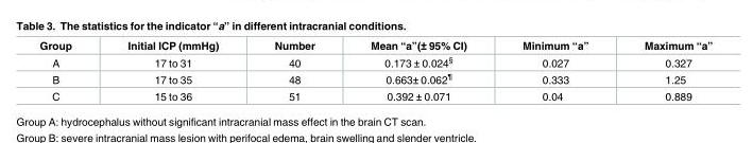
<table><thead><tr><td>Group</td><td>Initial ICP (mmHg)</td><td>Number</td><td>Mean “a”(± 95% CI)</td><td>Minimum “a”</td><td>Maximum “a”</td></tr></thead><tbody><tr><td>A</td><td>17 to 31</td><td>40</td><td>0.173 ± 0.024<sup>§</sup></td><td>0.027</td><td>0.327</td></tr><tr><td>B</td><td>17 to 35</td><td>48</td><td>0.663± 0.062<sup>¶</sup></td><td>0.333</td><td>1.25</td></tr><tr><td>C</td><td>15 to 36</td><td>51</td><td>0.392 ± 0.071</td><td>0.04</td><td>0.889</td></tr></tbody></table>